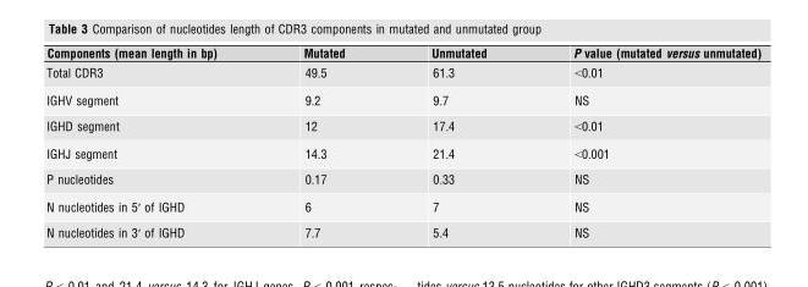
<table><thead><tr><td>Components (mean length in bp)</td><td>Mutated</td><td>Unmutated</td><td>P value (mutated versus unmutated)</td></tr></thead><tbody><tr><td>Total CDR3</td><td>49.5</td><td>61.3</td><td>&lt;0.01</td></tr><tr><td>IGHV segment</td><td>9.2</td><td>9.7</td><td>NS</td></tr><tr><td>IGHD segment</td><td>12</td><td>17.4</td><td>&lt;0.01</td></tr><tr><td>IGHJ segment</td><td>14.3</td><td>21.4</td><td>&lt;0.001</td></tr><tr><td>P nucleotides</td><td>0.17</td><td>0.33</td><td>NS</td></tr><tr><td>N nucleotides in 5′ of IGHD</td><td>6</td><td>7</td><td>NS</td></tr><tr><td>N nucleotides in 3′ of IGHD</td><td>7.7</td><td>5.4</td><td>NS</td></tr></tbody></table>